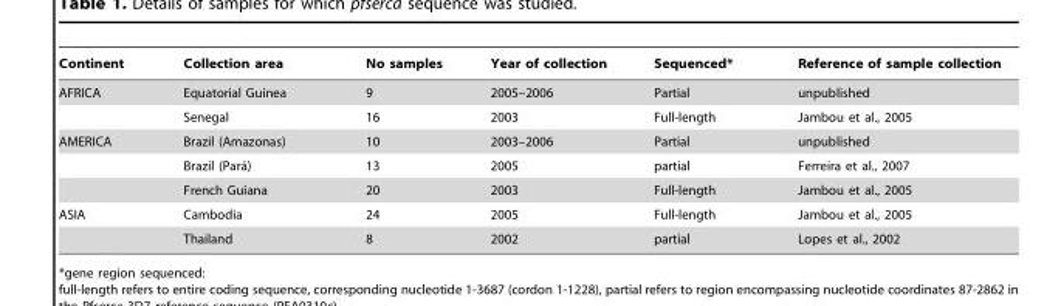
<table><thead><tr><td>Continent</td><td>Collection area</td><td>No samples</td><td>Year of collection</td><td>Sequenced*</td><td>Reference of sample collection</td></tr></thead><tbody><tr><td rowspan="2">AFRICA</td><td>Equatorial Guinea</td><td>9</td><td>2005–2006</td><td>Partial</td><td>unpublished</td></tr><tr><td>Senegal</td><td>16</td><td>2003</td><td>Full-length</td><td>Jambou et al., 2005</td></tr><tr><td rowspan="3">AMERICA</td><td>Brazil (Amazonas)</td><td>10</td><td>2003–2006</td><td>Partial</td><td>unpublished</td></tr><tr><td>Brazil (Para´)</td><td>13</td><td>2005</td><td>partial</td><td>Ferreira et al., 2007</td></tr><tr><td>French Guiana</td><td>20</td><td>2003</td><td>Full-length</td><td>Jambou et al., 2005</td></tr><tr><td rowspan="2">ASIA</td><td>Cambodia</td><td>24</td><td>2005</td><td>Full-length</td><td>Jambou et al., 2005</td></tr><tr><td>Thailand</td><td>8</td><td>2002</td><td>partial</td><td>Lopes et al., 2002</td></tr></tbody></table>